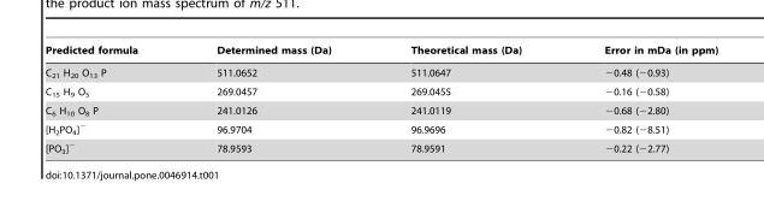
<table><thead><tr><td>Predicted formula</td><td>Determined mass (Da)</td><td>Theoretical mass (Da)</td><td>Error in mDa (in ppm)</td></tr></thead><tbody><tr><td>C<sub>21</sub> H<sub>20</sub> O<sub>13</sub> P</td><td>511.0652</td><td>511.0647</td><td>−0.48 (−0.93)</td></tr><tr><td>C<sub>15</sub> H<sub>9</sub> O<sub>5</sub></td><td>269.0457</td><td>269.0455</td><td>−0.16 (−0.58)</td></tr><tr><td>C<sub>6</sub> H<sub>10</sub> O<sub>8</sub> P</td><td>241.0126</td><td>241.0119</td><td>−0.68 (−2.80)</td></tr><tr><td>[H<sub>2</sub>PO<sub>4</sub>]<sup>−</sup></td><td>96.9704</td><td>96.9696</td><td>−0.82 (−8.51)</td></tr><tr><td>[PO<sub>3</sub>]<sup>−</sup></td><td>78.9593</td><td>78.9591</td><td>−0.22 (−2.77)</td></tr></tbody></table>